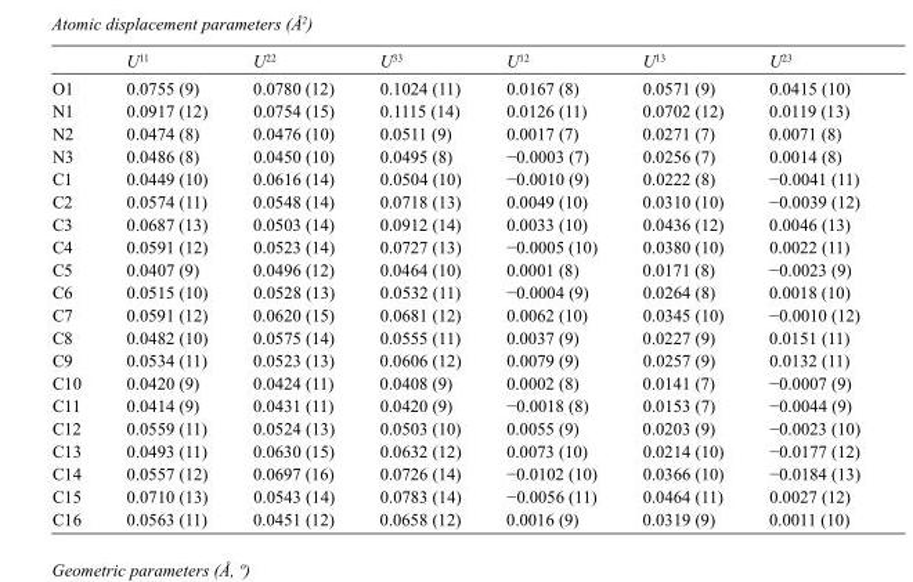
<table><thead><tr><td></td><td>U<sup>11</sup></td><td>U<sup>22</sup></td><td>U<sup>33</sup></td><td>U<sup>12</sup></td><td>U<sup>13</sup></td><td>U<sup>23</sup></td></tr></thead><tbody><tr><td>O1</td><td>0.0755 (9)</td><td>0.0780 (12)</td><td>0.1024 (11)</td><td>0.0167 (8)</td><td>0.0571 (9)</td><td>0.0415 (10)</td></tr><tr><td>N1</td><td>0.0917 (12)</td><td>0.0754 (15)</td><td>0.1115 (14)</td><td>0.0126 (11)</td><td>0.0702 (12)</td><td>0.0119 (13)</td></tr><tr><td>N2</td><td>0.0474 (8)</td><td>0.0476 (10)</td><td>0.0511 (9)</td><td>0.0017 (7)</td><td>0.0271 (7)</td><td>0.0071 (8)</td></tr><tr><td>N3</td><td>0.0486 (8)</td><td>0.0450 (10)</td><td>0.0495 (8)</td><td>−0.0003 (7)</td><td>0.0256 (7)</td><td>0.0014 (8)</td></tr><tr><td>C1</td><td>0.0449 (10)</td><td>0.0616 (14)</td><td>0.0504 (10)</td><td>−0.0010 (9)</td><td>0.0222 (8)</td><td>−0.0041 (11)</td></tr><tr><td>C2</td><td>0.0574 (11)</td><td>0.0548 (14)</td><td>0.0718 (13)</td><td>0.0049 (10)</td><td>0.0310 (10)</td><td>−0.0039 (12)</td></tr><tr><td>C3</td><td>0.0687 (13)</td><td>0.0503 (14)</td><td>0.0912 (14)</td><td>0.0033 (10)</td><td>0.0436 (12)</td><td>0.0046 (13)</td></tr><tr><td>C4</td><td>0.0591 (12)</td><td>0.0523 (14)</td><td>0.0727 (13)</td><td>−0.0005 (10)</td><td>0.0380 (10)</td><td>0.0022 (11)</td></tr><tr><td>C5</td><td>0.0407 (9)</td><td>0.0496 (12)</td><td>0.0464 (10)</td><td>0.0001 (8)</td><td>0.0171 (8)</td><td>−0.0023 (9)</td></tr><tr><td>C6</td><td>0.0515 (10)</td><td>0.0528 (13)</td><td>0.0532 (11)</td><td>−0.0004 (9)</td><td>0.0264 (8)</td><td>0.0018 (10)</td></tr><tr><td>C7</td><td>0.0591 (12)</td><td>0.0620 (15)</td><td>0.0681 (12)</td><td>0.0062 (10)</td><td>0.0345 (10)</td><td>−0.0010 (12)</td></tr><tr><td>C8</td><td>0.0482 (10)</td><td>0.0575 (14)</td><td>0.0555 (11)</td><td>0.0037 (9)</td><td>0.0227 (9)</td><td>0.0151 (11)</td></tr><tr><td>C9</td><td>0.0534 (11)</td><td>0.0523 (13)</td><td>0.0606 (12)</td><td>0.0079 (9)</td><td>0.0257 (9)</td><td>0.0132 (11)</td></tr><tr><td>C10</td><td>0.0420 (9)</td><td>0.0424 (11)</td><td>0.0408 (9)</td><td>0.0002 (8)</td><td>0.0141 (7)</td><td>−0.0007 (9)</td></tr><tr><td>C11</td><td>0.0414 (9)</td><td>0.0431 (11)</td><td>0.0420 (9)</td><td>−0.0018 (8)</td><td>0.0153 (7)</td><td>−0.0044 (9)</td></tr><tr><td>C12</td><td>0.0559 (11)</td><td>0.0524 (13)</td><td>0.0503 (10)</td><td>0.0055 (9)</td><td>0.0203 (9)</td><td>−0.0023 (10)</td></tr><tr><td>C13</td><td>0.0493 (11)</td><td>0.0630 (15)</td><td>0.0632 (12)</td><td>0.0073 (10)</td><td>0.0214 (10)</td><td>−0.0177 (12)</td></tr><tr><td>C14</td><td>0.0557 (12)</td><td>0.0697 (16)</td><td>0.0726 (14)</td><td>−0.0102 (10)</td><td>0.0366 (10)</td><td>−0.0184 (13)</td></tr><tr><td>C15</td><td>0.0710 (13)</td><td>0.0543 (14)</td><td>0.0783 (14)</td><td>−0.0056 (11)</td><td>0.0464 (11)</td><td>0.0027 (12)</td></tr><tr><td>C16</td><td>0.0563 (11)</td><td>0.0451 (12)</td><td>0.0658 (12)</td><td>0.0016 (9)</td><td>0.0319 (9)</td><td>0.0011 (10)</td></tr></tbody></table>